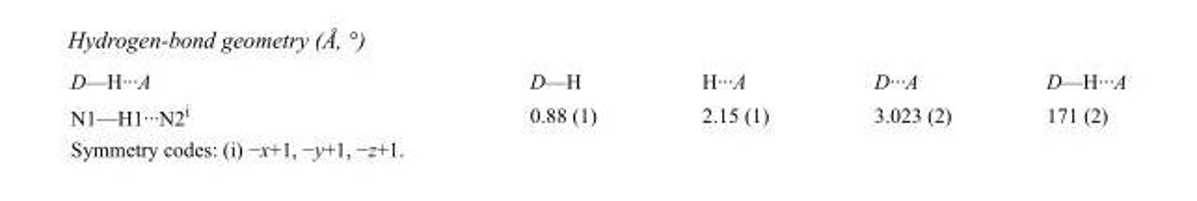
<table><tbody><tr><td>D—H···A</td><td>D—H</td><td>H···A</td><td>D···A</td><td>D—H···A</td></tr><tr><td>N1—H1···N2<sup>i</sup></td><td>0.88 (1)</td><td>2.15 (1)</td><td>3.023 (2)</td><td>171 (2)</td></tr></tbody></table>